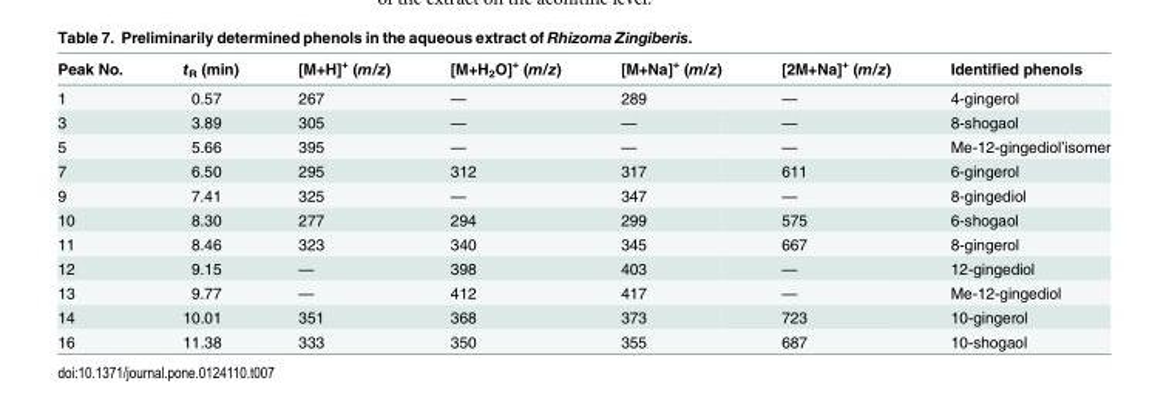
<table><thead><tr><td>Peak No.</td><td>t<sub>R</sub> (min)</td><td>[M+H]<sup>+</sup> (m/z)</td><td>[M+H<sub>2</sub>O]<sup>+</sup> (m/z)</td><td>[M+Na]<sup>+</sup> (m/z)</td><td>[2M+Na]<sup>+</sup> (m/z)</td><td>Identified phenols</td></tr></thead><tbody><tr><td>1</td><td>0.57</td><td>267</td><td>—</td><td>289</td><td>—</td><td>4-gingerol</td></tr><tr><td>3</td><td>3.89</td><td>305</td><td>—</td><td>—</td><td>—</td><td>8-shogaol</td></tr><tr><td>5</td><td>5.66</td><td>395</td><td>—</td><td>—</td><td>—</td><td>Me-12-gingediol’isomer</td></tr><tr><td>7</td><td>6.50</td><td>295</td><td>312</td><td>317</td><td>611</td><td>6-gingerol</td></tr><tr><td>9</td><td>7.41</td><td>325</td><td>—</td><td>347</td><td>—</td><td>8-gingediol</td></tr><tr><td>10</td><td>8.30</td><td>277</td><td>294</td><td>299</td><td>575</td><td>6-shogaol</td></tr><tr><td>11</td><td>8.46</td><td>323</td><td>340</td><td>345</td><td>667</td><td>8-gingerol</td></tr><tr><td>12</td><td>9.15</td><td>—</td><td>398</td><td>403</td><td>—</td><td>12-gingediol</td></tr><tr><td>13</td><td>9.77</td><td>—</td><td>412</td><td>417</td><td>—</td><td>Me-12-gingediol</td></tr><tr><td>14</td><td>10.01</td><td>351</td><td>368</td><td>373</td><td>723</td><td>10-gingerol</td></tr><tr><td>16</td><td>11.38</td><td>333</td><td>350</td><td>355</td><td>687</td><td>10-shogaol</td></tr></tbody></table>